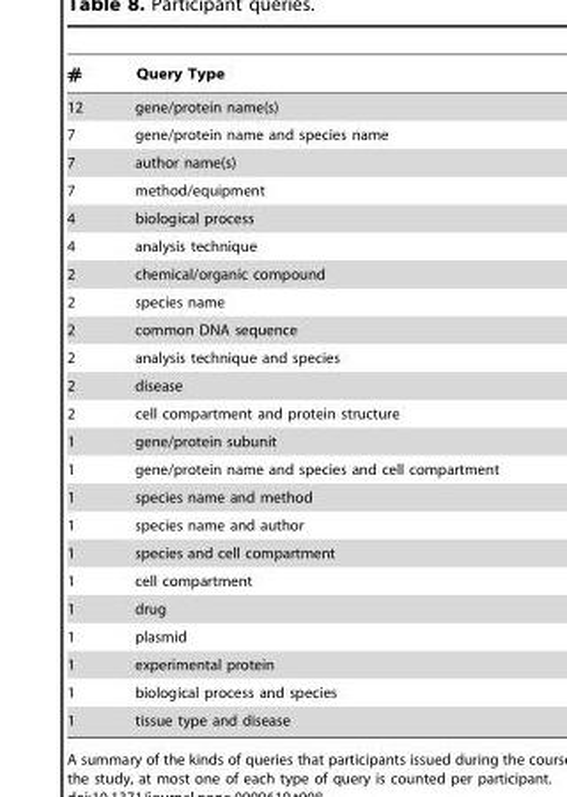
<table><thead><tr><td colspan="2"># Query Type</td></tr><tr><td>12</td><td>gene/protein name(s)</td></tr></thead><tbody><tr><td>7</td><td>gene/protein name and species name</td></tr><tr><td>7</td><td>author name(s)</td></tr><tr><td>7</td><td>method/equipment</td></tr><tr><td>4</td><td>biological process</td></tr><tr><td>4</td><td>analysis technique</td></tr><tr><td>2</td><td>chemical/organic compound</td></tr><tr><td>2</td><td>species name</td></tr><tr><td>2</td><td>common DNA sequence</td></tr><tr><td>2</td><td>analysis technique and species</td></tr><tr><td>2</td><td>disease</td></tr><tr><td>2</td><td>cell compartment and protein structure</td></tr><tr><td>1</td><td>gene/protein subunit</td></tr><tr><td>1</td><td>gene/protein name and species and cell compartment</td></tr><tr><td>1</td><td>species name and method</td></tr><tr><td>1</td><td>species name and author</td></tr><tr><td>1</td><td>species and cell compartment</td></tr><tr><td>1</td><td>cell compartment</td></tr><tr><td>1</td><td>drug</td></tr><tr><td>1</td><td>plasmid</td></tr><tr><td>1</td><td>experimental protein</td></tr><tr><td>1</td><td>biological process and species</td></tr><tr><td>1</td><td>tissue type and disease</td></tr></tbody></table>